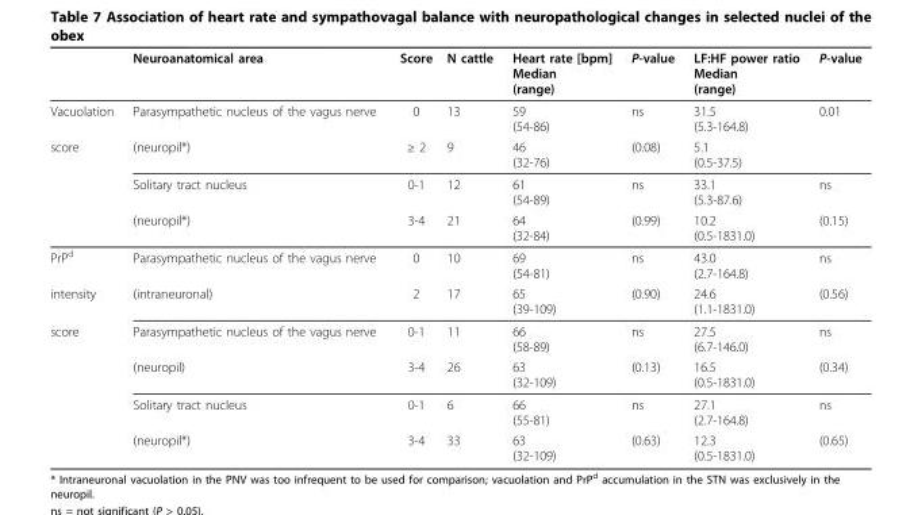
<table><thead><tr><td></td><td>Neuroanatomical area</td><td>Score</td><td>N cattle</td><td>Heart rate [bpm] Median (range)</td><td>P-value</td><td>LF:HF power ratio Median (range)</td><td>P-value</td></tr></thead><tbody><tr><td>Vacuolation</td><td>Parasympathetic nucleus of the vagus nerve</td><td>0</td><td>13</td><td>59 (54-86)</td><td>ns</td><td>31.5 (5.3-164.8)</td><td>0.01</td></tr><tr><td rowspan="3">score</td><td>(neuropil*)</td><td>≥ 2</td><td>9</td><td>46 (32-76)</td><td>(0.08)</td><td>5.1 (0.5-37.5)</td><td></td></tr><tr><td>Solitary tract nucleus</td><td>0-1</td><td>12</td><td>61 (54-89)</td><td>ns</td><td>33.1 (5.3-87.6)</td><td>ns</td></tr><tr><td>(neuropil*)</td><td>3-4</td><td>21</td><td>64 (32-84)</td><td>(0.99)</td><td>10.2 (0.5-1831.0)</td><td>(0.15)</td></tr><tr><td>PrP<sup>d</sup></td><td>Parasympathetic nucleus of the vagus nerve</td><td>0</td><td>10</td><td>69 (54-81)</td><td>ns</td><td>43.0 (2.7-164.8)</td><td>ns</td></tr><tr><td>intensity</td><td>(intraneuronal)</td><td>2</td><td>17</td><td>65 (39-109)</td><td>(0.90)</td><td>24.6 (1.1-1831.0)</td><td>(0.56)</td></tr><tr><td rowspan="4">score</td><td>Parasympathetic nucleus of the vagus nerve</td><td>0-1</td><td>11</td><td>66 (58-89)</td><td>ns</td><td>27.5 (6.7-146.0)</td><td>ns</td></tr><tr><td>(neuropil)</td><td>3-4</td><td>26</td><td>63 (32-109)</td><td>(0.13)</td><td>16.5 (0.5-1831.0)</td><td>(0.34)</td></tr><tr><td>Solitary tract nucleus</td><td>0-1</td><td>6</td><td>66 (55-81)</td><td>ns</td><td>27.1 (2.7-164.8)</td><td>ns</td></tr><tr><td>(neuropil*)</td><td>3-4</td><td>33</td><td>63 (32-109)</td><td>(0.63)</td><td>12.3 (0.5-1831.0)</td><td>(0.65)</td></tr></tbody></table>